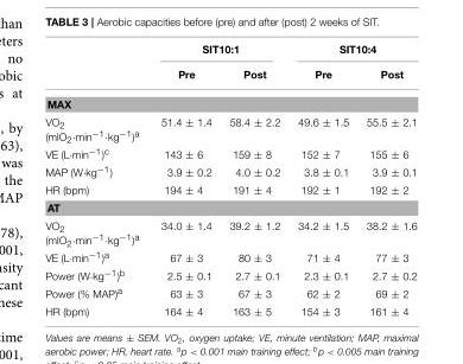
<table><thead><tr><td rowspan="2"></td><td colspan="2">SIT10:1</td><td colspan="2">SIT10:4</td></tr><tr><td>Pre</td><td>Post</td><td>Pre</td><td>Post</td></tr></thead><tbody><tr><td colspan="5">MAX</td></tr><tr><td>VO<sub>2</sub> (mlO<sub>2</sub>·min<sup>−1</sup>·kg<sup>−1</sup>)<sup>a</sup></td><td>51.4 ± 1.4</td><td>58.4 ± 2.2</td><td>49.6 ± 1.5</td><td>55.5 ± 2.1</td></tr><tr><td>VE (L·min<sup>−1</sup>)<sup>c</sup></td><td>143 ± 6</td><td>159 ± 8</td><td>152 ± 7</td><td>155 ± 6</td></tr><tr><td>MAP (W·kg<sup>−1</sup>)</td><td>3.9 ± 0.2</td><td>4.0 ± 0.2</td><td>3.8 ± 0.1</td><td>3.9 ± 0.1</td></tr><tr><td>HR (bpm)</td><td>194 ± 4</td><td>191 ± 4</td><td>192 ± 1</td><td>192 ± 2</td></tr><tr><td colspan="5">AT</td></tr><tr><td>VO<sub>2</sub> (mlO<sub>2</sub>·min<sup>−1</sup>·kg<sup>−1</sup>)<sup>a</sup></td><td>34.0 ± 1.4</td><td>39.2 ± 1.2</td><td>34.2 ± 1.5</td><td>38.2 ± 1.6</td></tr><tr><td>VE (L·min<sup>−1</sup>)<sup>a</sup></td><td>67 ± 3</td><td>80 ± 3</td><td>71 ± 4</td><td>77 ± 3</td></tr><tr><td>Power (W·kg<sup>−1</sup>)<sup>b</sup></td><td>2.5 ± 0.1</td><td>2.7 ± 0.1</td><td>2.3 ± 0.1</td><td>2.7 ± 0.2</td></tr><tr><td>Power (% MAP)<sup>a</sup></td><td>63 ± 3</td><td>67 ± 3</td><td>62 ± 2</td><td>69 ± 2</td></tr><tr><td>HR (bpm)</td><td>164 ± 4</td><td>163 ± 5</td><td>154 ± 3</td><td>161 ± 4</td></tr></tbody></table>